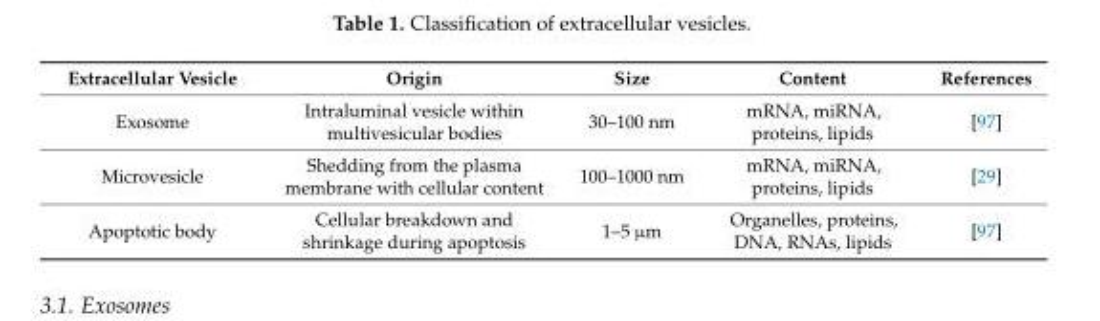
<table><thead><tr><td>Extracellular Vesicle</td><td>Origin</td><td>Size</td><td>Content</td><td>References</td></tr></thead><tbody><tr><td>Exosome</td><td>Intraluminal vesicle within multivesicular bodies</td><td>30–100 nm</td><td>mRNA, miRNA, proteins, lipids</td><td>[97]</td></tr><tr><td>Microvesicle</td><td>Shedding from the plasma membrane with cellular content</td><td>100–1000 nm</td><td>mRNA, miRNA, proteins, lipids</td><td>[29]</td></tr><tr><td>Apoptotic body</td><td>Cellular breakdown and shrinkage during apoptosis</td><td>1–5 µm</td><td>Organelles, proteins, DNA, RNAs, lipids</td><td>[97]</td></tr></tbody></table>